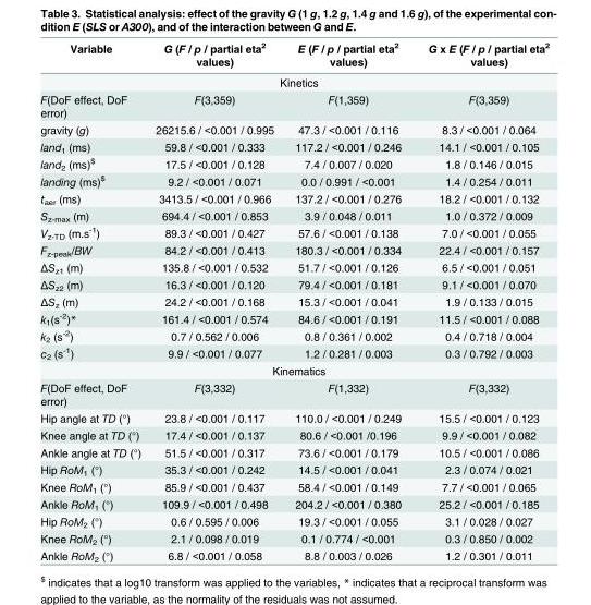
<table><thead><tr><td>Variable</td><td>G (F / p / partial eta<sup>2</sup> values)</td><td>E (F / p / partial eta<sup>2</sup> values)</td><td>G x E (F / p / partial eta<sup>2</sup> values)</td></tr></thead><tbody><tr><td colspan="4">Kinetics</td></tr><tr><td>F(DoF effect, DoF error)</td><td>F(3,359)</td><td>F(1,359)</td><td>F(3,359)</td></tr><tr><td>gravity (g)</td><td>26215.6 / &lt;0.001 / 0.995</td><td>47.3 / &lt;0.001 / 0.116</td><td>8.3 / &lt;0.001 / 0.064</td></tr><tr><td>land<sub>1</sub> (ms)</td><td>59.8 / &lt;0.001 / 0.333</td><td>117.2 / &lt;0.001 / 0.246</td><td>14.1 / &lt;0.001 / 0.105</td></tr><tr><td>land<sub>2</sub> (ms)<sup>$</sup></td><td>17.5 / &lt;0.001 / 0.128</td><td>7.4 / 0.007 / 0.020</td><td>1.8 / 0.146 / 0.015</td></tr><tr><td>landing (ms)<sup>$</sup></td><td>9.2 / &lt;0.001 / 0.071</td><td>0.0 / 0.991 / &lt;0.001</td><td>1.4 / 0.254 / 0.011</td></tr><tr><td>t<sub>aer</sub> (ms)</td><td>3413.5 / &lt;0.001 / 0.966</td><td>137.2 / &lt;0.001 / 0.276</td><td>18.2 / &lt;0.001 / 0.132</td></tr><tr><td>S<sub>z-max</sub> (m)</td><td>694.4 / &lt;0.001 / 0.853</td><td>3.9 / 0.048 / 0.011</td><td>1.0 / 0.372 / 0.009</td></tr><tr><td>V<sub>z-TD</sub> (m.s<sup>-1</sup>)</td><td>89.3 / &lt;0.001 / 0.427</td><td>57.6 / &lt;0.001 / 0.138</td><td>7.0 / &lt;0.001 / 0.055</td></tr><tr><td>F<sub>z-peak</sub>/BW</td><td>84.2 / &lt;0.001 / 0.413</td><td>180.3 / &lt;0.001 / 0.334</td><td>22.4 / &lt;0.001 / 0.157</td></tr><tr><td>ΔS<sub>z1</sub> (m)</td><td>135.8 / &lt;0.001 / 0.532</td><td>51.7 / &lt;0.001 / 0.126</td><td>6.5 / &lt;0.001 / 0.051</td></tr><tr><td>ΔS<sub>z2</sub> (m)</td><td>16.3 / &lt;0.001 / 0.120</td><td>79.4 / &lt;0.001 / 0.181</td><td>9.1 / &lt;0.001 / 0.070</td></tr><tr><td>ΔS<sub>z</sub> (m)</td><td>24.2 / &lt;0.001 / 0.168</td><td>15.3 / &lt;0.001 / 0.041</td><td>1.9 / 0.133 / 0.015</td></tr><tr><td>k<sub>1</sub>(s<sup>-2</sup>)*</td><td>161.4 / &lt;0.001 / 0.574</td><td>84.6 / &lt;0.001 / 0.191</td><td>11.5 / &lt;0.001 / 0.088</td></tr><tr><td>k<sub>2</sub> (s<sup>-2</sup>)</td><td>0.7 / 0.562 / 0.006</td><td>0.8 / 0.361 / 0.002</td><td>0.4 / 0.718 / 0.004</td></tr><tr><td>c<sub>2</sub> (s<sup>-1</sup>)</td><td>9.9 / &lt;0.001 / 0.077</td><td>1.2 / 0.281 / 0.003</td><td>0.3 / 0.792 / 0.003</td></tr><tr><td colspan="4">Kinematics</td></tr><tr><td>F(DoF effect, DoF error)</td><td>F(3,332)</td><td>F(1,332)</td><td>F(3,332)</td></tr><tr><td>Hip angle at TD (°)</td><td>23.8 / &lt;0.001 / 0.117</td><td>110.0 / &lt;0.001 / 0.249</td><td>15.5 / &lt;0.001 / 0.123</td></tr><tr><td>Knee angle at TD (°)</td><td>17.4 / &lt;0.001 / 0.137</td><td>80.6 / &lt;0.001 /0.196</td><td>9.9 / &lt;0.001 / 0.082</td></tr><tr><td>Ankle angle at TD (°)</td><td>51.5 / &lt;0.001 / 0.317</td><td>73.6 / &lt;0.001 / 0.179</td><td>10.5 / &lt;0.001 / 0.086</td></tr><tr><td>Hip RoM<sub>1</sub> (°)</td><td>35.3 / &lt;0.001 / 0.242</td><td>14.5 / &lt;0.001 / 0.041</td><td>2.3 / 0.074 / 0.021</td></tr><tr><td>Knee RoM<sub>1</sub> (°)</td><td>85.9 / &lt;0.001 / 0.437</td><td>58.4 / &lt;0.001 / 0.149</td><td>7.7 / &lt;0.001 / 0.065</td></tr><tr><td>Ankle RoM<sub>1</sub> (°)</td><td>109.9 / &lt;0.001 / 0.498</td><td>204.2 / &lt;0.001 / 0.380</td><td>25.2 / &lt;0.001 / 0.185</td></tr><tr><td>Hip RoM<sub>2</sub> (°)</td><td>0.6 / 0.595 / 0.006</td><td>19.3 / &lt;0.001 / 0.055</td><td>3.1 / 0.028 / 0.027</td></tr><tr><td>Knee RoM<sub>2</sub> (°)</td><td>2.1 / 0.098 / 0.019</td><td>0.1 / 0.774 / &lt;0.001</td><td>0.3 / 0.850 / 0.002</td></tr><tr><td>Ankle RoM<sub>2</sub> (°)</td><td>6.8 / &lt;0.001 / 0.058</td><td>8.8 / 0.003 / 0.026</td><td>1.2 / 0.301 / 0.011</td></tr></tbody></table>